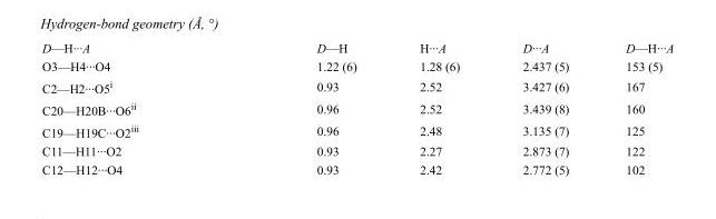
<table><tbody><tr><td>D—H···A</td><td>D—H</td><td>H···A</td><td>D···A</td><td>D—H···A</td></tr><tr><td>O3—H4···O4</td><td>1.22 (6)</td><td>1.28 (6)</td><td>2.437 (5)</td><td>153 (5)</td></tr><tr><td>C2—H2···O5<sup>i</sup></td><td>0.93</td><td>2.52</td><td>3.427 (6)</td><td>167</td></tr><tr><td>C20—H20B···O6<sup>ii</sup></td><td>0.96</td><td>2.52</td><td>3.439 (8)</td><td>160</td></tr><tr><td>C19—H19C···O2<sup>iii</sup></td><td>0.96</td><td>2.48</td><td>3.135 (7)</td><td>125</td></tr><tr><td>C11—H11···O2</td><td>0.93</td><td>2.27</td><td>2.873 (7)</td><td>122</td></tr><tr><td>C12—H12···O4</td><td>0.93</td><td>2.42</td><td>2.772 (5)</td><td>102</td></tr></tbody></table>